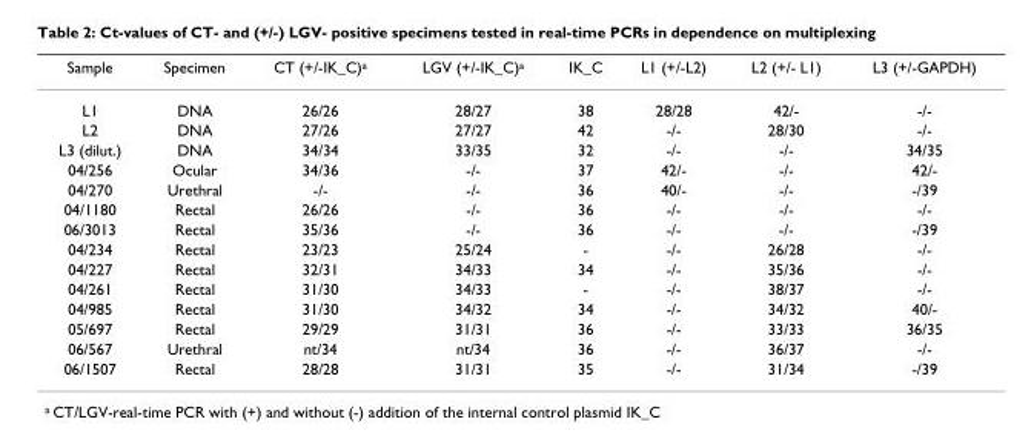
<table><thead><tr><td>Sample</td><td>Specimen</td><td>CT (+/-IK_C)<sup>a</sup></td><td>LGV (+/-IK_C)<sup>a</sup></td><td>IK_C</td><td>L1 (+/-L2)</td><td>L2 (+/- L1)</td><td>L3 (+/-GAPDH)</td></tr></thead><tbody><tr><td>L1</td><td>DNA</td><td>26/26</td><td>28/27</td><td>38</td><td>28/28</td><td>42/-</td><td>-/-</td></tr><tr><td>L2</td><td>DNA</td><td>27/26</td><td>27/27</td><td>42</td><td>-/-</td><td>28/30</td><td>-/-</td></tr><tr><td>L3 (dilut.)</td><td>DNA</td><td>34/34</td><td>33/35</td><td>32</td><td>-/-</td><td>-/-</td><td>34/35</td></tr><tr><td>04/256</td><td>Ocular</td><td>34/36</td><td>-/-</td><td>37</td><td>42/-</td><td>-/-</td><td>42/-</td></tr><tr><td>04/270</td><td>Urethral</td><td>-/-</td><td>-/-</td><td>36</td><td>40/-</td><td>-/-</td><td>-/39</td></tr><tr><td>04/1180</td><td>Rectal</td><td>26/26</td><td>-/-</td><td>36</td><td>-/-</td><td>-/-</td><td>-/-</td></tr><tr><td>06/3013</td><td>Rectal</td><td>35/36</td><td>-/-</td><td>36</td><td>-/-</td><td>-/-</td><td>-/39</td></tr><tr><td>04/234</td><td>Rectal</td><td>23/23</td><td>25/24</td><td>-</td><td>-/-</td><td>26/28</td><td>-/-</td></tr><tr><td>04/227</td><td>Rectal</td><td>32/31</td><td>34/33</td><td>34</td><td>-/-</td><td>35/36</td><td>-/-</td></tr><tr><td>04/261</td><td>Rectal</td><td>31/30</td><td>34/33</td><td>-</td><td>-/-</td><td>38/37</td><td>-/-</td></tr><tr><td>04/985</td><td>Rectal</td><td>31/30</td><td>34/32</td><td>34</td><td>-/-</td><td>34/32</td><td>40/-</td></tr><tr><td>05/697</td><td>Rectal</td><td>29/29</td><td>31/31</td><td>36</td><td>-/-</td><td>33/33</td><td>36/35</td></tr><tr><td>06/567</td><td>Urethral</td><td>nt/34</td><td>nt/34</td><td>36</td><td>-/-</td><td>36/37</td><td>-/-</td></tr><tr><td>06/1507</td><td>Rectal</td><td>28/28</td><td>31/31</td><td>35</td><td>-/-</td><td>31/34</td><td>-/39</td></tr></tbody></table>